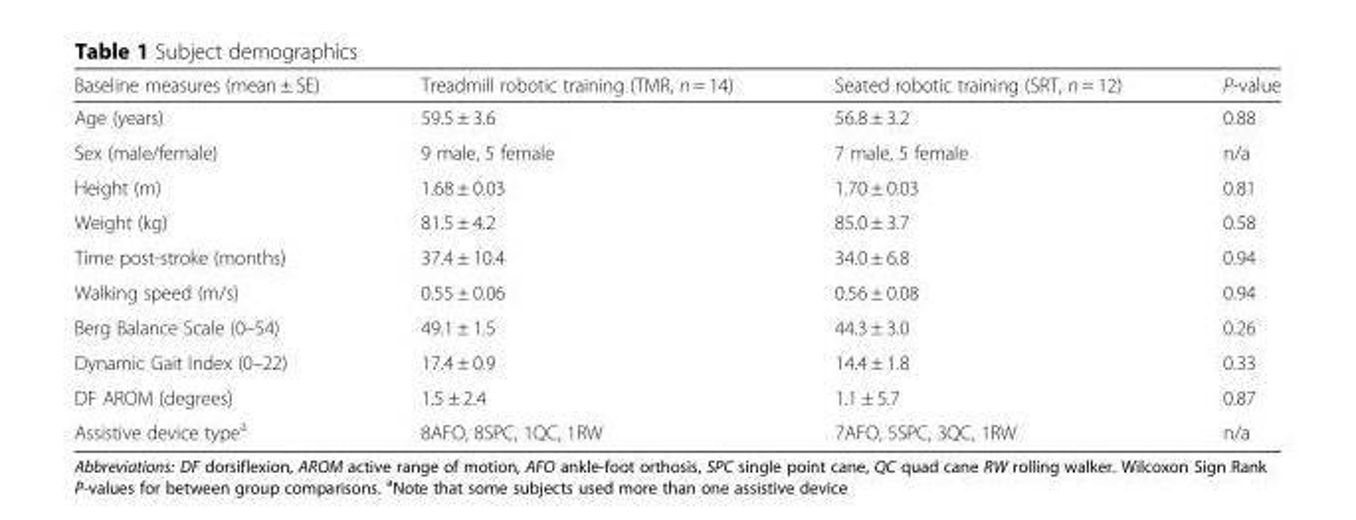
<table><thead><tr><td>Baseline measures (mean ± SE)</td><td>Treadmill robotic training (TMR, n = 14)</td><td>Seated robotic training (SRT, n = 12)</td><td>P-value</td></tr></thead><tbody><tr><td>Age (years)</td><td>59.5 ± 3.6</td><td>56.8 ± 3.2</td><td>0.88</td></tr><tr><td>Sex (male/female)</td><td>9 male, 5 female</td><td>7 male, 5 female</td><td>n/a</td></tr><tr><td>Height (m)</td><td>1.68 ± 0.03</td><td>1.70 ± 0.03</td><td>0.81</td></tr><tr><td>Weight (kg)</td><td>81.5 ± 4.2</td><td>85.0 ± 3.7</td><td>0.58</td></tr><tr><td>Time post-stroke (months)</td><td>37.4 ± 10.4</td><td>34.0 ± 6.8</td><td>0.94</td></tr><tr><td>Walking speed (m/s)</td><td>0.55 ± 0.06</td><td>0.56 ± 0.08</td><td>0.94</td></tr><tr><td>Berg Balance Scale (0–54)</td><td>49.1 ± 1.5</td><td>44.3 ± 3.0</td><td>0.26</td></tr><tr><td>Dynamic Gait Index (0–22)</td><td>17.4 ± 0.9</td><td>14.4 ± 1.8</td><td>0.33</td></tr><tr><td>DF AROM (degrees)</td><td>1.5 ± 2.4</td><td>1.1 ± 5.7</td><td>0.87</td></tr><tr><td>Assistive device type<sup>a</sup></td><td>8AFO, 8SPC, 1QC, 1RW</td><td>7AFO, 5SPC, 3QC, 1RW</td><td>n/a</td></tr></tbody></table>